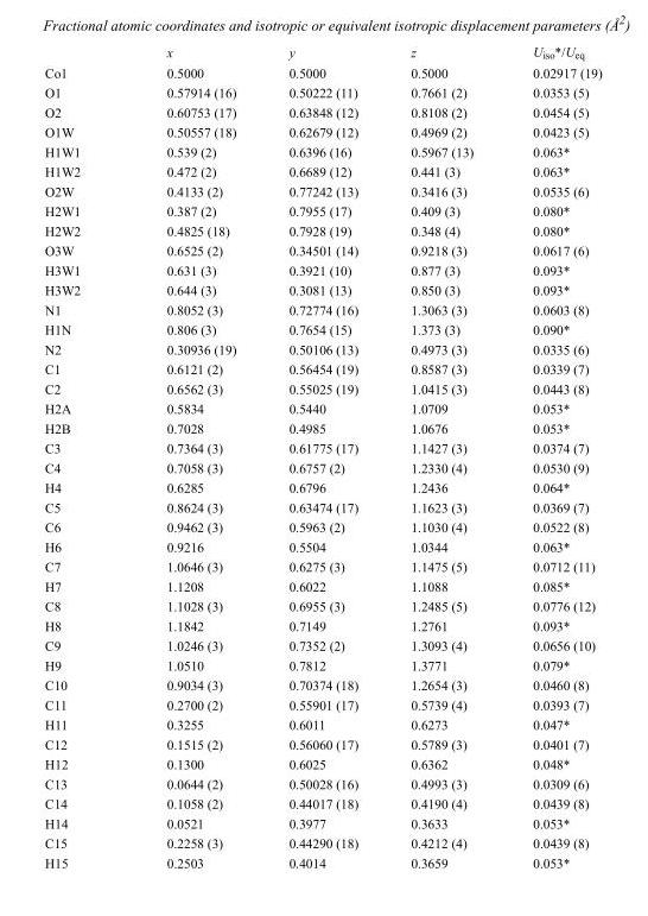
<table><thead><tr><td></td><td>x</td><td>y</td><td>z</td><td>U<sub>iso</sub>*/U<sub>eq</sub></td></tr></thead><tbody><tr><td>Co1</td><td>0.5000</td><td>0.5000</td><td>0.5000</td><td>0.02917 (19)</td></tr><tr><td>O1</td><td>0.57914 (16)</td><td>0.50222 (11)</td><td>0.7661 (2)</td><td>0.0353 (5)</td></tr><tr><td>O2</td><td>0.60753 (17)</td><td>0.63848 (12)</td><td>0.8108 (2)</td><td>0.0454 (5)</td></tr><tr><td>O1W</td><td>0.50557 (18)</td><td>0.62679 (12)</td><td>0.4969 (2)</td><td>0.0423 (5)</td></tr><tr><td>H1W1</td><td>0.539 (2)</td><td>0.6396 (16)</td><td>0.5967 (13)</td><td>0.063*</td></tr><tr><td>H1W2</td><td>0.472 (2)</td><td>0.6689 (12)</td><td>0.441 (3)</td><td>0.063*</td></tr><tr><td>O2W</td><td>0.4133 (2)</td><td>0.77242 (13)</td><td>0.3416 (3)</td><td>0.0535 (6)</td></tr><tr><td>H2W1</td><td>0.387 (2)</td><td>0.7955 (17)</td><td>0.409 (3)</td><td>0.080*</td></tr><tr><td>H2W2</td><td>0.4825 (18)</td><td>0.7928 (19)</td><td>0.348 (4)</td><td>0.080*</td></tr><tr><td>O3W</td><td>0.6525 (2)</td><td>0.34501 (14)</td><td>0.9218 (3)</td><td>0.0617 (6)</td></tr><tr><td>H3W1</td><td>0.631 (3)</td><td>0.3921 (10)</td><td>0.877 (3)</td><td>0.093*</td></tr><tr><td>H3W2</td><td>0.644 (3)</td><td>0.3081 (13)</td><td>0.850 (3)</td><td>0.093*</td></tr><tr><td>N1</td><td>0.8052 (3)</td><td>0.72774 (16)</td><td>1.3063 (3)</td><td>0.0603 (8)</td></tr><tr><td>H1N</td><td>0.806 (3)</td><td>0.7654 (15)</td><td>1.373 (3)</td><td>0.090*</td></tr><tr><td>N2</td><td>0.30936 (19)</td><td>0.50106 (13)</td><td>0.4973 (3)</td><td>0.0335 (6)</td></tr><tr><td>C1</td><td>0.6121 (2)</td><td>0.56454 (19)</td><td>0.8587 (3)</td><td>0.0339 (7)</td></tr><tr><td>C2</td><td>0.6562 (3)</td><td>0.55025 (19)</td><td>1.0415 (3)</td><td>0.0443 (8)</td></tr><tr><td>H2A</td><td>0.5834</td><td>0.5440</td><td>1.0709</td><td>0.053*</td></tr><tr><td>H2B</td><td>0.7028</td><td>0.4985</td><td>1.0676</td><td>0.053*</td></tr><tr><td>C3</td><td>0.7364 (3)</td><td>0.61775 (17)</td><td>1.1427 (3)</td><td>0.0374 (7)</td></tr><tr><td>C4</td><td>0.7058 (3)</td><td>0.6757 (2)</td><td>1.2330 (4)</td><td>0.0530 (9)</td></tr><tr><td>H4</td><td>0.6285</td><td>0.6796</td><td>1.2436</td><td>0.064*</td></tr><tr><td>C5</td><td>0.8624 (3)</td><td>0.63474 (17)</td><td>1.1623 (3)</td><td>0.0369 (7)</td></tr><tr><td>C6</td><td>0.9462 (3)</td><td>0.5963 (2)</td><td>1.1030 (4)</td><td>0.0522 (8)</td></tr><tr><td>H6</td><td>0.9216</td><td>0.5504</td><td>1.0344</td><td>0.063*</td></tr><tr><td>C7</td><td>1.0646 (3)</td><td>0.6275 (3)</td><td>1.1475 (5)</td><td>0.0712 (11)</td></tr><tr><td>H7</td><td>1.1208</td><td>0.6022</td><td>1.1088</td><td>0.085*</td></tr><tr><td>C8</td><td>1.1028 (3)</td><td>0.6955 (3)</td><td>1.2485 (5)</td><td>0.0776 (12)</td></tr><tr><td>H8</td><td>1.1842</td><td>0.7149</td><td>1.2761</td><td>0.093*</td></tr><tr><td>C9</td><td>1.0246 (3)</td><td>0.7352 (2)</td><td>1.3093 (4)</td><td>0.0656 (10)</td></tr><tr><td>H9</td><td>1.0510</td><td>0.7812</td><td>1.3771</td><td>0.079*</td></tr><tr><td>C10</td><td>0.9034 (3)</td><td>0.70374 (18)</td><td>1.2654 (3)</td><td>0.0460 (8)</td></tr><tr><td>C11</td><td>0.2700 (2)</td><td>0.55901 (17)</td><td>0.5739 (4)</td><td>0.0393 (7)</td></tr><tr><td>H11</td><td>0.3255</td><td>0.6011</td><td>0.6273</td><td>0.047*</td></tr><tr><td>C12</td><td>0.1515 (2)</td><td>0.56060 (17)</td><td>0.5789 (3)</td><td>0.0401 (7)</td></tr><tr><td>H12</td><td>0.1300</td><td>0.6025</td><td>0.6362</td><td>0.048*</td></tr><tr><td>C13</td><td>0.0644 (2)</td><td>0.50028 (16)</td><td>0.4993 (3)</td><td>0.0309 (6)</td></tr><tr><td>C14</td><td>0.1058 (2)</td><td>0.44017 (18)</td><td>0.4190 (4)</td><td>0.0439 (8)</td></tr><tr><td>H14</td><td>0.0521</td><td>0.3977</td><td>0.3633</td><td>0.053*</td></tr><tr><td>C15</td><td>0.2258 (3)</td><td>0.44290 (18)</td><td>0.4212 (4)</td><td>0.0439 (8)</td></tr><tr><td>H15</td><td>0.2503</td><td>0.4014</td><td>0.3659</td><td>0.053*</td></tr></tbody></table>